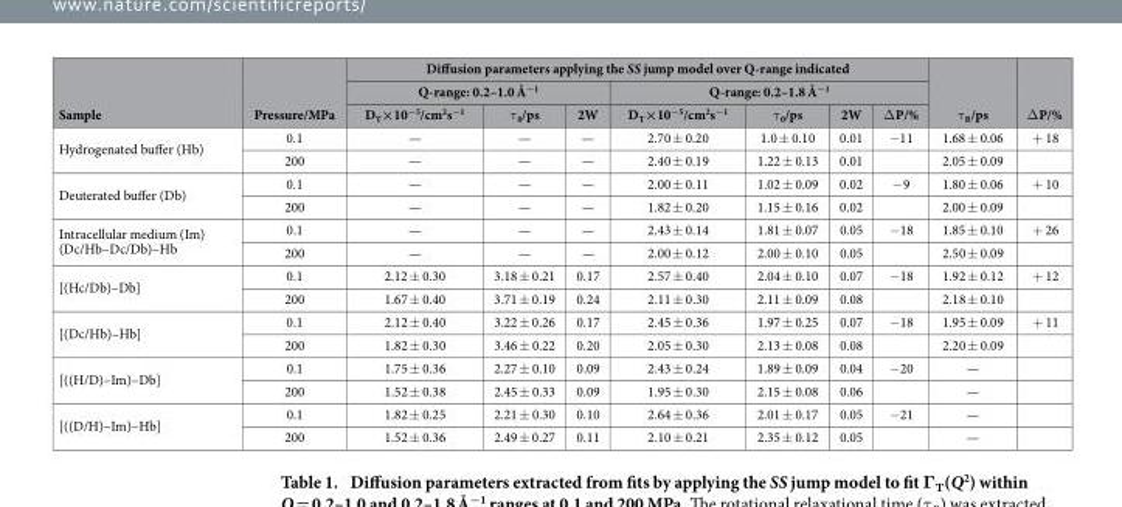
<table><thead><tr><td rowspan="3">Sample</td><td rowspan="3">Pressure/MPa</td><td colspan="7">Diffusion parameters applying the SS jump model over Q-range indicated</td><td rowspan="3">τ <sub>R</sub>/ps</td><td rowspan="3">Δ P/%</td></tr><tr><td colspan="3">Q-range: 0.2–1.0 Å<sup>−1</sup></td><td colspan="4">Q-range: 0.2–1.8 Å<sup>−1</sup></td></tr><tr><td>D<sub>T</sub>×10<sup>−5</sup>/cm<sup>2</sup>s<sup>−1</sup></td><td>τ <sub>0</sub>/ps</td><td>2W</td><td>D<sub>T</sub>×10<sup>−5</sup>/cm<sup>2</sup>s<sup>−1</sup></td><td>τ <sub>0</sub>/ps</td><td>2W</td><td>Δ P/%</td></tr></thead><tbody><tr><td rowspan="2">Hydrogenated buffer (Hb)</td><td>0.1</td><td>—</td><td>—</td><td>—</td><td>2.70 ± 0.20</td><td>1.0 ± 0.10</td><td>0.01</td><td>−11</td><td>1.68 ± 0.06</td><td>+ 18</td></tr><tr><td>200</td><td>—</td><td>—</td><td>—</td><td>2.40 ± 0.19</td><td>1.22 ± 0.13</td><td>0.01</td><td></td><td>2.05 ± 0.09</td><td></td></tr><tr><td rowspan="2">Deuterated buffer (Db)</td><td>0.1</td><td>—</td><td>—</td><td>—</td><td>2.00 ± 0.11</td><td>1.02 ± 0.09</td><td>0.02</td><td>−9</td><td>1.80 ± 0.06</td><td>+ 10</td></tr><tr><td>200</td><td>—</td><td>—</td><td>—</td><td>1.82 ± 0.20</td><td>1.15 ± 0.16</td><td>0.02</td><td></td><td>2.00 ± 0.09</td><td></td></tr><tr><td rowspan="2">Intracellular medium (Im) (Dc/Hb–Dc/Db)–Hb</td><td>0.1</td><td>—</td><td>—</td><td>—</td><td>2.43 ± 0.14</td><td>1.81 ± 0.07</td><td>0.05</td><td>−18</td><td>1.85 ± 0.10</td><td>+ 26</td></tr><tr><td>200</td><td>—</td><td>—</td><td>—</td><td>2.00 ± 0.12</td><td>2.00 ± 0.10</td><td>0.05</td><td></td><td>2.50 ± 0.09</td><td></td></tr><tr><td rowspan="2">[(Hc/Db)–Db]</td><td>0.1</td><td>2.12 ± 0.30</td><td>3.18 ± 0.21</td><td>0.17</td><td>2.57 ± 0.40</td><td>2.04 ± 0.10</td><td>0.07</td><td>−18</td><td>1.92 ± 0.12</td><td>+ 12</td></tr><tr><td>200</td><td>1.67 ± 0.40</td><td>3.71 ± 0.19</td><td>0.24</td><td>2.11 ± 0.30</td><td>2.11 ± 0.09</td><td>0.08</td><td></td><td>2.18 ± 0.10</td><td></td></tr><tr><td rowspan="2">[(Dc/Hb)–Hb]</td><td>0.1</td><td>2.12 ± 0.40</td><td>3.22 ± 0.26</td><td>0.17</td><td>2.45 ± 0.36</td><td>1.97 ± 0.25</td><td>0.07</td><td>−18</td><td>1.95 ± 0.09</td><td>+ 11</td></tr><tr><td>200</td><td>1.82 ± 0.30</td><td>3.46 ± 0.22</td><td>0.20</td><td>2.05 ± 0.30</td><td>2.13 ± 0.08</td><td>0.08</td><td></td><td>2.20 ± 0.09</td><td></td></tr><tr><td rowspan="2">[((H/D)–Im)–Db]</td><td>0.1</td><td>1.75 ± 0.36</td><td>2.27 ± 0.10</td><td>0.09</td><td>2.43 ± 0.24</td><td>1.89 ± 0.09</td><td>0.04</td><td>−20</td><td>—</td><td></td></tr><tr><td>200</td><td>1.52 ± 0.38</td><td>2.45 ± 0.33</td><td>0.09</td><td>1.95 ± 0.30</td><td>2.15 ± 0.08</td><td>0.06</td><td></td><td>—</td><td></td></tr><tr><td rowspan="2">[((D/H)–Im)–Hb]</td><td>0.1</td><td>1.82 ± 0.25</td><td>2.21 ± 0.30</td><td>0.10</td><td>2.64 ± 0.36</td><td>2.01 ± 0.17</td><td>0.05</td><td>−21</td><td>—</td><td></td></tr><tr><td>200</td><td>1.52 ± 0.36</td><td>2.49 ± 0.27</td><td>0.11</td><td>2.10 ± 0.21</td><td>2.35 ± 0.12</td><td>0.05</td><td></td><td>—</td><td></td></tr></tbody></table>